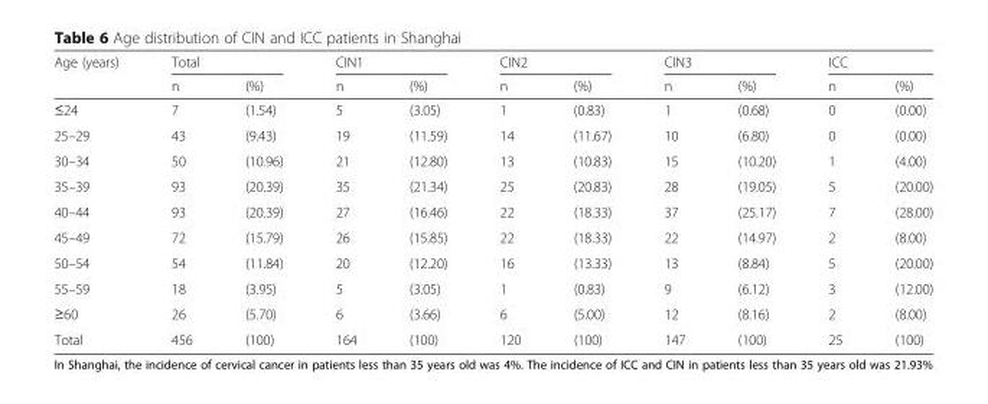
<table><thead><tr><td rowspan="2">Age (years)</td><td colspan="2">Total</td><td colspan="2">CIN1</td><td colspan="2">CIN2</td><td colspan="2">CIN3</td><td colspan="2">ICC</td></tr><tr><td>n</td><td>(%)</td><td>n</td><td>(%)</td><td>n</td><td>(%)</td><td>n</td><td>(%)</td><td>n</td><td>(%)</td></tr></thead><tbody><tr><td>≤24</td><td>7</td><td>(1.54)</td><td>5</td><td>(3.05)</td><td>1</td><td>(0.83)</td><td>1</td><td>(0.68)</td><td>0</td><td>(0.00)</td></tr><tr><td>25–29</td><td>43</td><td>(9.43)</td><td>19</td><td>(11.59)</td><td>14</td><td>(11.67)</td><td>10</td><td>(6.80)</td><td>0</td><td>(0.00)</td></tr><tr><td>30–34</td><td>50</td><td>(10.96)</td><td>21</td><td>(12.80)</td><td>13</td><td>(10.83)</td><td>15</td><td>(10.20)</td><td>1</td><td>(4.00)</td></tr><tr><td>35–39</td><td>93</td><td>(20.39)</td><td>35</td><td>(21.34)</td><td>25</td><td>(20.83)</td><td>28</td><td>(19.05)</td><td>5</td><td>(20.00)</td></tr><tr><td>40–44</td><td>93</td><td>(20.39)</td><td>27</td><td>(16.46)</td><td>22</td><td>(18.33)</td><td>37</td><td>(25.17)</td><td>7</td><td>(28.00)</td></tr><tr><td>45–49</td><td>72</td><td>(15.79)</td><td>26</td><td>(15.85)</td><td>22</td><td>(18.33)</td><td>22</td><td>(14.97)</td><td>2</td><td>(8.00)</td></tr><tr><td>50–54</td><td>54</td><td>(11.84)</td><td>20</td><td>(12.20)</td><td>16</td><td>(13.33)</td><td>13</td><td>(8.84)</td><td>5</td><td>(20.00)</td></tr><tr><td>55–59</td><td>18</td><td>(3.95)</td><td>5</td><td>(3.05)</td><td>1</td><td>(0.83)</td><td>9</td><td>(6.12)</td><td>3</td><td>(12.00)</td></tr><tr><td>≥60</td><td>26</td><td>(5.70)</td><td>6</td><td>(3.66)</td><td>6</td><td>(5.00)</td><td>12</td><td>(8.16)</td><td>2</td><td>(8.00)</td></tr><tr><td>Total</td><td>456</td><td>(100)</td><td>164</td><td>(100)</td><td>120</td><td>(100)</td><td>147</td><td>(100)</td><td>25</td><td>(100)</td></tr></tbody></table>